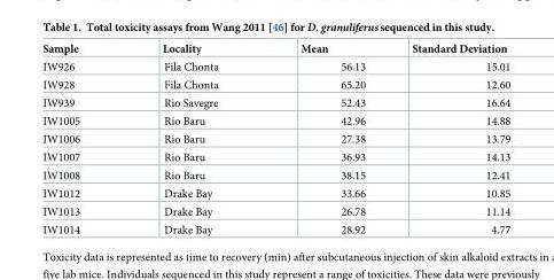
<table><thead><tr><td>Sample</td><td>Locality</td><td>Mean</td><td>Standard Deviation</td></tr></thead><tbody><tr><td>IW926</td><td>Fila Chonta</td><td>56.13</td><td>15.01</td></tr><tr><td>IW928</td><td>Fila Chonta</td><td>65.20</td><td>12.60</td></tr><tr><td>IW939</td><td>Rio Savegre</td><td>52.43</td><td>16.64</td></tr><tr><td>IW1005</td><td>Rio Baru</td><td>42.96</td><td>14.88</td></tr><tr><td>IW1006</td><td>Rio Baru</td><td>27.38</td><td>13.79</td></tr><tr><td>IW1007</td><td>Rio Baru</td><td>36.93</td><td>14.13</td></tr><tr><td>IW1008</td><td>Rio Baru</td><td>38.15</td><td>12.41</td></tr><tr><td>IW1012</td><td>Drake Bay</td><td>33.66</td><td>10.85</td></tr><tr><td>IW1013</td><td>Drake Bay</td><td>26.78</td><td>11.14</td></tr><tr><td>IW1014</td><td>Drake Bay</td><td>28.92</td><td>4.77</td></tr></tbody></table>